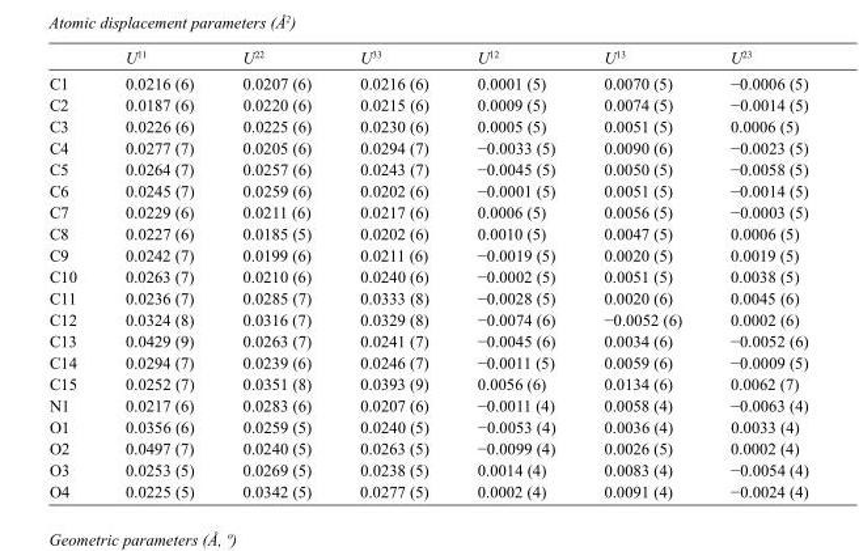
<table><thead><tr><td></td><td>U<sup>11</sup></td><td>U<sup>22</sup></td><td>U<sup>33</sup></td><td>U<sup>12</sup></td><td>U<sup>13</sup></td><td>U<sup>23</sup></td></tr></thead><tbody><tr><td>C1</td><td>0.0216 (6)</td><td>0.0207 (6)</td><td>0.0216 (6)</td><td>0.0001 (5)</td><td>0.0070 (5)</td><td>−0.0006 (5)</td></tr><tr><td>C2</td><td>0.0187 (6)</td><td>0.0220 (6)</td><td>0.0215 (6)</td><td>0.0009 (5)</td><td>0.0074 (5)</td><td>−0.0014 (5)</td></tr><tr><td>C3</td><td>0.0226 (6)</td><td>0.0225 (6)</td><td>0.0230 (6)</td><td>0.0005 (5)</td><td>0.0051 (5)</td><td>0.0006 (5)</td></tr><tr><td>C4</td><td>0.0277 (7)</td><td>0.0205 (6)</td><td>0.0294 (7)</td><td>−0.0033 (5)</td><td>0.0090 (6)</td><td>−0.0023 (5)</td></tr><tr><td>C5</td><td>0.0264 (7)</td><td>0.0257 (6)</td><td>0.0243 (7)</td><td>−0.0045 (5)</td><td>0.0050 (5)</td><td>−0.0058 (5)</td></tr><tr><td>C6</td><td>0.0245 (7)</td><td>0.0259 (6)</td><td>0.0202 (6)</td><td>−0.0001 (5)</td><td>0.0051 (5)</td><td>−0.0014 (5)</td></tr><tr><td>C7</td><td>0.0229 (6)</td><td>0.0211 (6)</td><td>0.0217 (6)</td><td>0.0006 (5)</td><td>0.0056 (5)</td><td>−0.0003 (5)</td></tr><tr><td>C8</td><td>0.0227 (6)</td><td>0.0185 (5)</td><td>0.0202 (6)</td><td>0.0010 (5)</td><td>0.0047 (5)</td><td>0.0006 (5)</td></tr><tr><td>C9</td><td>0.0242 (7)</td><td>0.0199 (6)</td><td>0.0211 (6)</td><td>−0.0019 (5)</td><td>0.0020 (5)</td><td>0.0019 (5)</td></tr><tr><td>C10</td><td>0.0263 (7)</td><td>0.0210 (6)</td><td>0.0240 (6)</td><td>−0.0002 (5)</td><td>0.0051 (5)</td><td>0.0038 (5)</td></tr><tr><td>C11</td><td>0.0236 (7)</td><td>0.0285 (7)</td><td>0.0333 (8)</td><td>−0.0028 (5)</td><td>0.0020 (6)</td><td>0.0045 (6)</td></tr><tr><td>C12</td><td>0.0324 (8)</td><td>0.0316 (7)</td><td>0.0329 (8)</td><td>−0.0074 (6)</td><td>−0.0052 (6)</td><td>0.0002 (6)</td></tr><tr><td>C13</td><td>0.0429 (9)</td><td>0.0263 (7)</td><td>0.0241 (7)</td><td>−0.0045 (6)</td><td>0.0034 (6)</td><td>−0.0052 (6)</td></tr><tr><td>C14</td><td>0.0294 (7)</td><td>0.0239 (6)</td><td>0.0246 (7)</td><td>−0.0011 (5)</td><td>0.0059 (6)</td><td>−0.0009 (5)</td></tr><tr><td>C15</td><td>0.0252 (7)</td><td>0.0351 (8)</td><td>0.0393 (9)</td><td>0.0056 (6)</td><td>0.0134 (6)</td><td>0.0062 (7)</td></tr><tr><td>N1</td><td>0.0217 (6)</td><td>0.0283 (6)</td><td>0.0207 (6)</td><td>−0.0011 (4)</td><td>0.0058 (4)</td><td>−0.0063 (4)</td></tr><tr><td>O1</td><td>0.0356 (6)</td><td>0.0259 (5)</td><td>0.0240 (5)</td><td>−0.0053 (4)</td><td>0.0036 (4)</td><td>0.0033 (4)</td></tr><tr><td>O2</td><td>0.0497 (7)</td><td>0.0240 (5)</td><td>0.0263 (5)</td><td>−0.0099 (4)</td><td>0.0026 (5)</td><td>0.0002 (4)</td></tr><tr><td>O3</td><td>0.0253 (5)</td><td>0.0269 (5)</td><td>0.0238 (5)</td><td>0.0014 (4)</td><td>0.0083 (4)</td><td>−0.0054 (4)</td></tr><tr><td>O4</td><td>0.0225 (5)</td><td>0.0342 (5)</td><td>0.0277 (5)</td><td>0.0002 (4)</td><td>0.0091 (4)</td><td>−0.0024 (4)</td></tr></tbody></table>